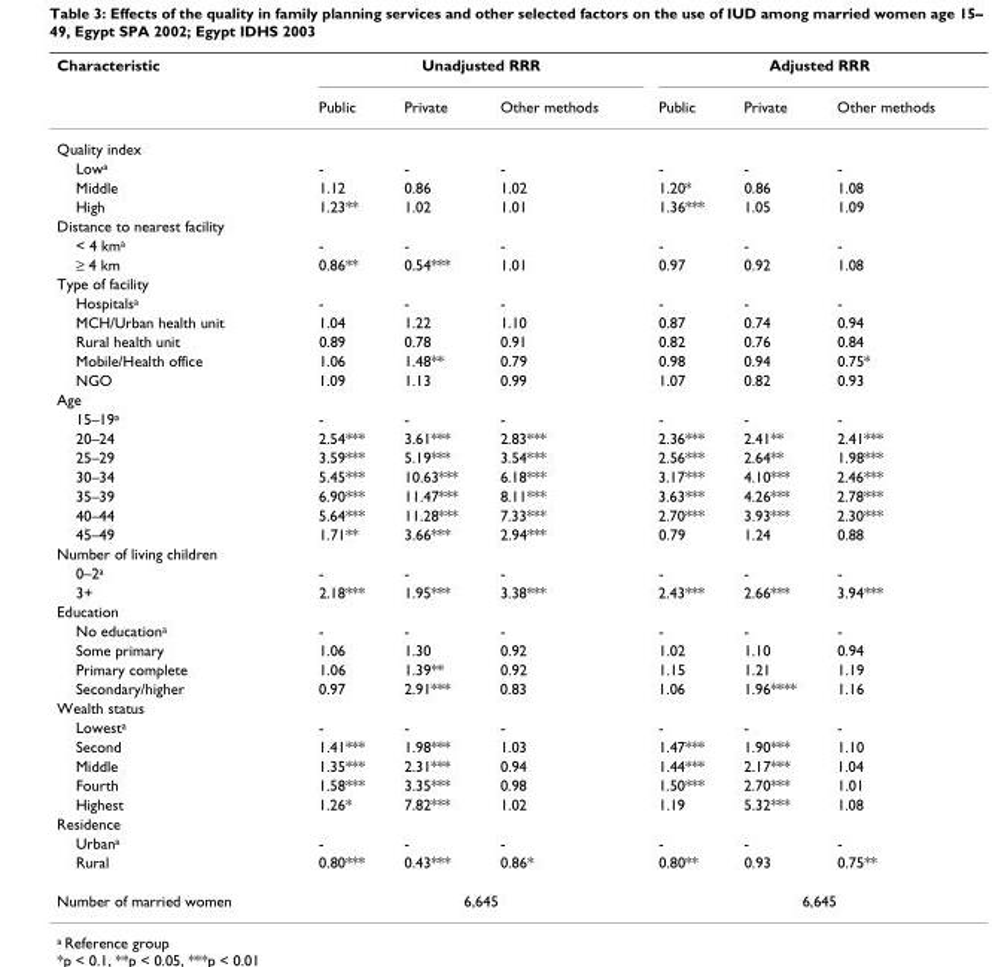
<table><thead><tr><td rowspan="2">Characteristic</td><td colspan="3">Unadjusted RRR</td><td colspan="3">Adjusted RRR</td></tr><tr><td>Public</td><td>Private</td><td>Other methods</td><td>Public</td><td>Private</td><td>Other methods</td></tr></thead><tbody><tr><td colspan="7">Quality index</td></tr><tr><td>Lowa</td><td>-</td><td>-</td><td>-</td><td>-</td><td>-</td><td>-</td></tr><tr><td>Middle</td><td>1.12</td><td>0.86</td><td>1.02</td><td>1.20*</td><td>0.86</td><td>1.08</td></tr><tr><td>High</td><td>1.23**</td><td>1.02</td><td>1.01</td><td>1.36***</td><td>1.05</td><td>1.09</td></tr><tr><td colspan="7">Distance to nearest facility</td></tr><tr><td>&lt; 4 kma</td><td>-</td><td>-</td><td>-</td><td>-</td><td>-</td><td>-</td></tr><tr><td>≥ 4 km</td><td>0.86**</td><td>0.54***</td><td>1.01</td><td>0.97</td><td>0.92</td><td>1.08</td></tr><tr><td colspan="7">Type of facility</td></tr><tr><td>Hospitalsa</td><td>-</td><td>-</td><td>-</td><td>-</td><td>-</td><td>-</td></tr><tr><td>MCH/Urban health unit</td><td>1.04</td><td>1.22</td><td>1.10</td><td>0.87</td><td>0.74</td><td>0.94</td></tr><tr><td>Rural health unit</td><td>0.89</td><td>0.78</td><td>0.91</td><td>0.82</td><td>0.76</td><td>0.84</td></tr><tr><td>Mobile/Health office</td><td>1.06</td><td>1.48**</td><td>0.79</td><td>0.98</td><td>0.94</td><td>0.75*</td></tr><tr><td>NGO</td><td>1.09</td><td>1.13</td><td>0.99</td><td>1.07</td><td>0.82</td><td>0.93</td></tr><tr><td colspan="7">Age</td></tr><tr><td>15–19a</td><td>-</td><td>-</td><td>-</td><td>-</td><td>-</td><td>-</td></tr><tr><td>20–24</td><td>2.54***</td><td>3.61***</td><td>2.83***</td><td>2.36***</td><td>2.41**</td><td>2.41***</td></tr><tr><td>25–29</td><td>3.59***</td><td>5.19***</td><td>3.54***</td><td>2.56***</td><td>2.64**</td><td>1.98***</td></tr><tr><td>30–34</td><td>5.45***</td><td>10.63***</td><td>6.18***</td><td>3.17***</td><td>4.10***</td><td>2.46***</td></tr><tr><td>35–39</td><td>6.90***</td><td>11.47***</td><td>8.11***</td><td>3.63***</td><td>4.26***</td><td>2.78***</td></tr><tr><td>40–44</td><td>5.64***</td><td>11.28***</td><td>7.33***</td><td>2.70***</td><td>3.93***</td><td>2.30***</td></tr><tr><td>45–49</td><td>1.71**</td><td>3.66***</td><td>2.94***</td><td>0.79</td><td>1.24</td><td>0.88</td></tr><tr><td colspan="7">Number of living children</td></tr><tr><td>0–2a</td><td>-</td><td>-</td><td>-</td><td>-</td><td>-</td><td>-</td></tr><tr><td>3+</td><td>2.18***</td><td>1.95***</td><td>3.38***</td><td>2.43***</td><td>2.66***</td><td>3.94***</td></tr><tr><td colspan="7">Education</td></tr><tr><td>No educationa</td><td>-</td><td>-</td><td>-</td><td>-</td><td>-</td><td>-</td></tr><tr><td>Some primary</td><td>1.06</td><td>1.30</td><td>0.92</td><td>1.02</td><td>1.10</td><td>0.94</td></tr><tr><td>Primary complete</td><td>1.06</td><td>1.39**</td><td>0.92</td><td>1.15</td><td>1.21</td><td>1.19</td></tr><tr><td>Secondary/higher</td><td>0.97</td><td>2.91***</td><td>0.83</td><td>1.06</td><td>1.96****</td><td>1.16</td></tr><tr><td colspan="7">Wealth status</td></tr><tr><td>Lowesta</td><td>-</td><td>-</td><td>-</td><td>-</td><td>-</td><td>-</td></tr><tr><td>Second</td><td>1.41***</td><td>1.98***</td><td>1.03</td><td>1.47***</td><td>1.90***</td><td>1.10</td></tr><tr><td>Middle</td><td>1.35***</td><td>2.31***</td><td>0.94</td><td>1.44***</td><td>2.17***</td><td>1.04</td></tr><tr><td>Fourth</td><td>1.58***</td><td>3.35***</td><td>0.98</td><td>1.50***</td><td>2.70***</td><td>1.01</td></tr><tr><td>Highest</td><td>1.26*</td><td>7.82***</td><td>1.02</td><td>1.19</td><td>5.32***</td><td>1.08</td></tr><tr><td colspan="7">Residence</td></tr><tr><td>Urbana</td><td>-</td><td>-</td><td>-</td><td>-</td><td>-</td><td>-</td></tr><tr><td>Rural</td><td>0.80***</td><td>0.43***</td><td>0.86*</td><td>0.80**</td><td>0.93</td><td>0.75**</td></tr><tr><td>Number of married women</td><td colspan="3">6,645</td><td colspan="3">6,645</td></tr></tbody></table>